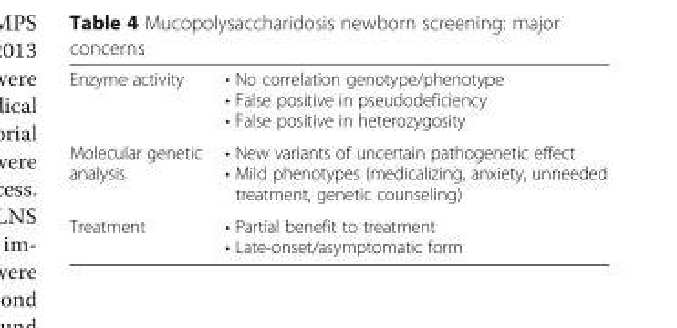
<table><tbody><tr><td>Enzyme activity</td><td>• No correlation genotype/phenotype • False positive in pseudodeficiency • False positive in heterozygosity</td></tr><tr><td>Molecular genetic analysis</td><td>• New variants of uncertain pathogenetic effect • Mild phenotypes (medicalizing, anxiety, unneeded treatment, genetic counseling)</td></tr><tr><td>Treatment</td><td>• Partial benefit to treatment • Late-onset/asymptomatic form</td></tr></tbody></table>